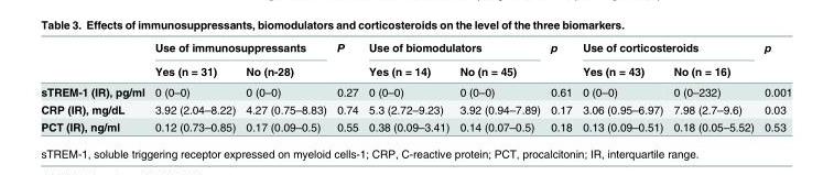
<table><thead><tr><td rowspan="2"></td><td colspan="2">Use of immunosuppressants</td><td rowspan="2">P</td><td colspan="2">Use of biomodulators</td><td rowspan="2">p</td><td colspan="2">Use of corticosteroids</td><td rowspan="2">p</td></tr><tr><td>Yes (n = 31)</td><td>No (n-28)</td><td>Yes (n = 14)</td><td>No (n = 45)</td><td>Yes (n = 43)</td><td>No (n = 16)</td></tr></thead><tbody><tr><td>sTREM-1 (IR), pg/ml</td><td>0 (0–0)</td><td>0 (0–0)</td><td>0.27</td><td>0 (0–0)</td><td>0 (0–0)</td><td>0.61</td><td>0 (0–0)</td><td>0 (0–232)</td><td>0.001</td></tr><tr><td>CRP (IR), mg/dL</td><td>3.92 (2.04–8.22)</td><td>4.27 (0.75–8.83)</td><td>0.74</td><td>5.3 (2.72–9.23)</td><td>3.92 (0.94–7.89)</td><td>0.17</td><td>3.06 (0.95–6.97)</td><td>7.98 (2.7–9.6)</td><td>0.03</td></tr><tr><td>PCT (IR), ng/ml</td><td>0.12 (0.73–0.85)</td><td>0.17 (0.09–0.5)</td><td>0.55</td><td>0.38 (0.09–3.41)</td><td>0.14 (0.07–0.5)</td><td>0.18</td><td>0.13 (0.09–0.51)</td><td>0.18 (0.05–5.52)</td><td>0.53</td></tr></tbody></table>